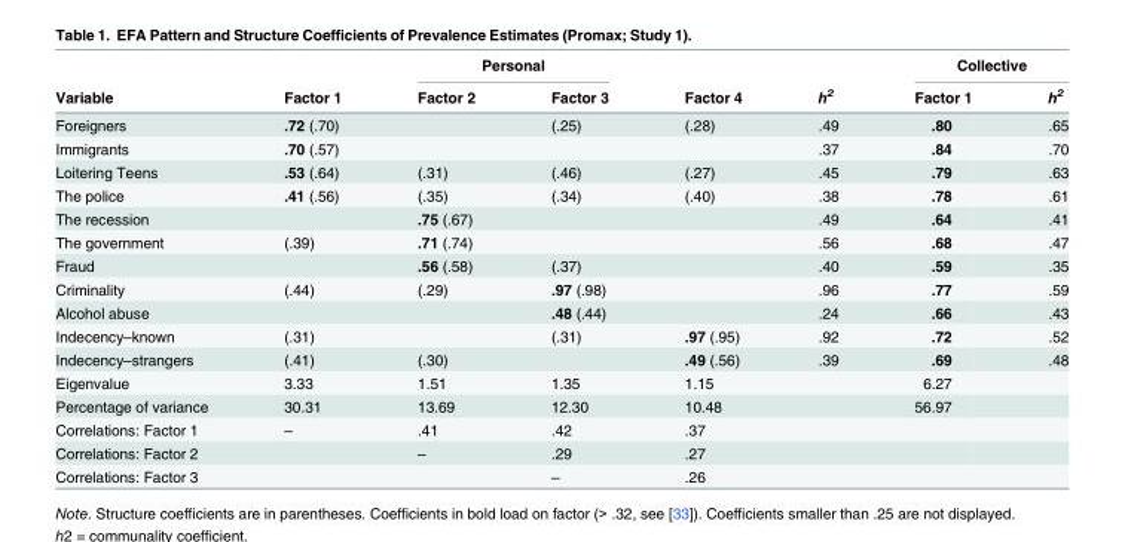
<table><thead><tr><td rowspan="2">Variable</td><td rowspan="2">Factor 1</td><td colspan="2">Personal</td><td rowspan="2">Factor 4</td><td rowspan="2">h<sup>2</sup></td><td colspan="2">Collective</td></tr><tr><td>Factor 2</td><td>Factor 3</td><td>Factor 1</td><td>h<sup>2</sup></td></tr></thead><tbody><tr><td>Foreigners</td><td>.72 (.70)</td><td></td><td>(.25)</td><td>(.28)</td><td>.49</td><td>.80</td><td>.65</td></tr><tr><td>Immigrants</td><td>.70 (.57)</td><td></td><td></td><td></td><td>.37</td><td>.84</td><td>.70</td></tr><tr><td>Loitering Teens</td><td>.53 (.64)</td><td>(.31)</td><td>(.46)</td><td>(.27)</td><td>.45</td><td>.79</td><td>.63</td></tr><tr><td>The police</td><td>.41 (.56)</td><td>(.35)</td><td>(.34)</td><td>(.40)</td><td>.38</td><td>.78</td><td>.61</td></tr><tr><td>The recession</td><td></td><td>.75 (.67)</td><td></td><td></td><td>.49</td><td>.64</td><td>.41</td></tr><tr><td>The government</td><td>(.39)</td><td>.71 (.74)</td><td></td><td></td><td>.56</td><td>.68</td><td>.47</td></tr><tr><td>Fraud</td><td></td><td>.56 (.58)</td><td>(.37)</td><td></td><td>.40</td><td>.59</td><td>.35</td></tr><tr><td>Criminality</td><td>(.44)</td><td>(.29)</td><td>.97 (.98)</td><td></td><td>.96</td><td>.77</td><td>.59</td></tr><tr><td>Alcohol abuse</td><td></td><td></td><td>.48 (.44)</td><td></td><td>.24</td><td>.66</td><td>.43</td></tr><tr><td>Indecency–known</td><td>(.31)</td><td></td><td>(.31)</td><td>.97 (.95)</td><td>.92</td><td>.72</td><td>.52</td></tr><tr><td>Indecency–strangers</td><td>(.41)</td><td>(.30)</td><td></td><td>.49 (.56)</td><td>.39</td><td>.69</td><td>.48</td></tr><tr><td>Eigenvalue</td><td>3.33</td><td>1.51</td><td>1.35</td><td>1.15</td><td></td><td>6.27</td><td></td></tr><tr><td>Percentage of variance</td><td>30.31</td><td>13.69</td><td>12.30</td><td>10.48</td><td></td><td>56.97</td><td></td></tr><tr><td>Correlations: Factor 1</td><td>–</td><td>.41</td><td>.42</td><td>.37</td><td></td><td></td><td></td></tr><tr><td>Correlations: Factor 2</td><td></td><td>–</td><td>.29</td><td>.27</td><td></td><td></td><td></td></tr><tr><td>Correlations: Factor 3</td><td></td><td></td><td>–</td><td>.26</td><td></td><td></td><td></td></tr></tbody></table>